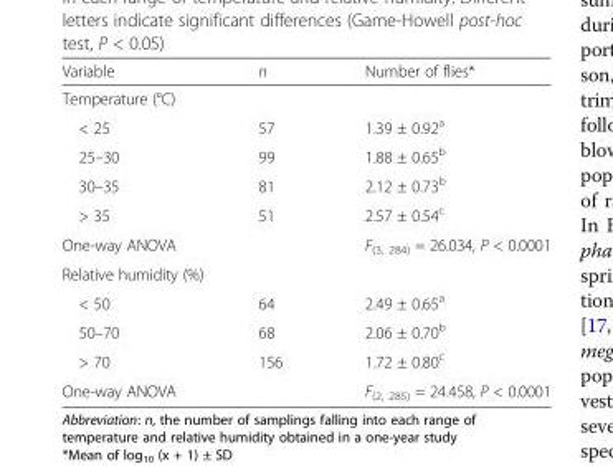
<table><thead><tr><td>Variable</td><td>n</td><td>Number of flies*</td></tr></thead><tbody><tr><td colspan="3">Temperature (°C)</td></tr><tr><td>&lt; 25</td><td>57</td><td>1.39 ± 0.92<sup>a</sup></td></tr><tr><td>25–30</td><td>99</td><td>1.88 ± 0.65<sup>b</sup></td></tr><tr><td>30–35</td><td>81</td><td>2.12 ± 0.73<sup>b</sup></td></tr><tr><td>&gt; 35</td><td>51</td><td>2.57 ± 0.54<sup>c</sup></td></tr><tr><td>One-way ANOVA</td><td></td><td>F<sub>(3, 284)</sub> = 26.034, P &lt; 0.0001</td></tr><tr><td colspan="3">Relative humidity (%)</td></tr><tr><td>&lt; 50</td><td>64</td><td>2.49 ± 0.65<sup>a</sup></td></tr><tr><td>50–70</td><td>68</td><td>2.06 ± 0.70<sup>b</sup></td></tr><tr><td>&gt; 70</td><td>156</td><td>1.72 ± 0.80<sup>c</sup></td></tr><tr><td>One-way ANOVA</td><td></td><td>F<sub>(2, 285)</sub> = 24.458, P &lt; 0.0001</td></tr></tbody></table>